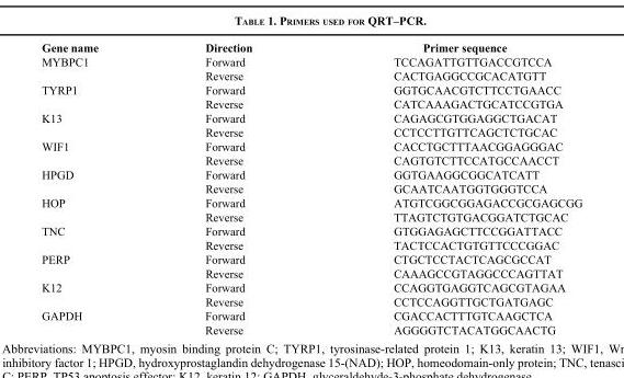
<table><thead><tr><td>Gene name</td><td>Direction</td><td>Primer sequence</td></tr></thead><tbody><tr><td rowspan="2">MYBPC1</td><td>Forward</td><td>TCCAGATTGTTGACCGTCCA</td></tr><tr><td>Reverse</td><td>CACTGAGGCCGCACATGTT</td></tr><tr><td rowspan="2">TYRP1</td><td>Forward</td><td>GGTGCAACGTCTTCCTGAACC</td></tr><tr><td>Reverse</td><td>CATCAAAGACTGCATCCGTGA</td></tr><tr><td rowspan="2">K13</td><td>Forward</td><td>CAGAGCGTGGAGGCTGACAT</td></tr><tr><td>Reverse</td><td>CCTCCTTGTTCAGCTCTGCAC</td></tr><tr><td rowspan="2">WIF1</td><td>Forward</td><td>CACCTGCTTTAACGGAGGGAC</td></tr><tr><td>Reverse</td><td>CAGTGTCTTCCATGCCAACCT</td></tr><tr><td rowspan="2">HPGD</td><td>Forward</td><td>GGTGAAGGCGGCATCATT</td></tr><tr><td>Reverse</td><td>GCAATCAATGGTGGGTCCA</td></tr><tr><td rowspan="2">HOP</td><td>Forward</td><td>ATGTCGGCGGAGACCGCGAGCGG</td></tr><tr><td>Reverse</td><td>TTAGTCTGTGACGGATCTGCAC</td></tr><tr><td rowspan="2">TNC</td><td>Forward</td><td>GTGGAGAGCTTCCGGATTACC</td></tr><tr><td>Reverse</td><td>TACTCCACTGTGTTCCCGGAC</td></tr><tr><td rowspan="2">PERP</td><td>Forward</td><td>CTGCTCCTACTCAGCGCCAT</td></tr><tr><td>Reverse</td><td>CAAAGCCGTAGGCCCAGTTAT</td></tr><tr><td rowspan="2">K12</td><td>Forward</td><td>CCAGGTGAGGTCAGCGTAGAA</td></tr><tr><td>Reverse</td><td>CCTCCAGGTTGCTGATGAGC</td></tr><tr><td rowspan="2">GAPDH</td><td>Forward</td><td>CGACCACTTTGTCAAGCTCA</td></tr><tr><td>Reverse</td><td>AGGGGTCTACATGGCAACTG</td></tr></tbody></table>